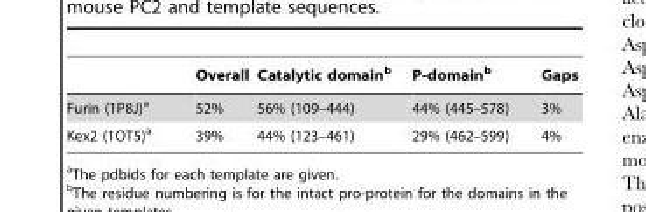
<table><thead><tr><td></td><td>Overall</td><td>Catalytic domain<sup>b</sup></td><td>P-domain<sup>b</sup></td><td>Gaps</td></tr></thead><tbody><tr><td>Furin (1P8J)<sup>a</sup></td><td>52%</td><td>56% (109–444)</td><td>44% (445–578)</td><td>3%</td></tr><tr><td>Kex2 (1OT5)<sup>a</sup></td><td>39%</td><td>44% (123–461)</td><td>29% (462–599)</td><td>4%</td></tr></tbody></table>